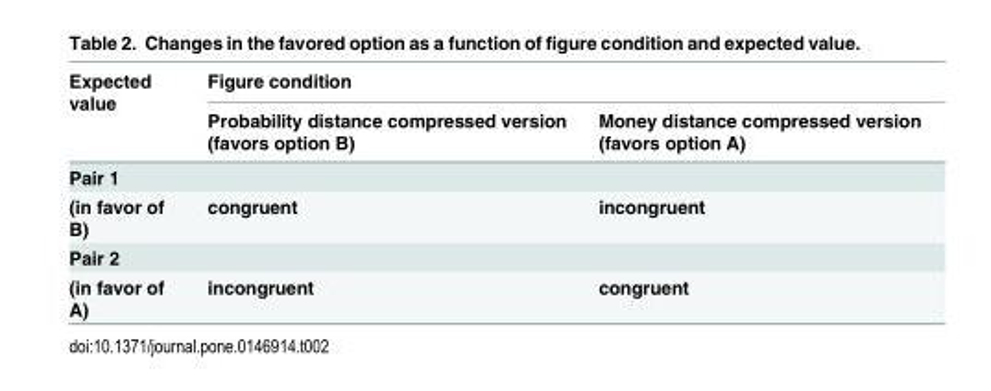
<table><thead><tr><td rowspan="2">Expected value</td><td colspan="2">Figure condition</td></tr><tr><td>Probability distance compressed version (favors option B)</td><td>Money distance compressed version (favors option A)</td></tr></thead><tbody><tr><td colspan="3">Pair 1</td></tr><tr><td>(in favor of B)</td><td>congruent</td><td>incongruent</td></tr><tr><td colspan="3">Pair 2</td></tr><tr><td>(in favor of A)</td><td>incongruent</td><td>congruent</td></tr></tbody></table>